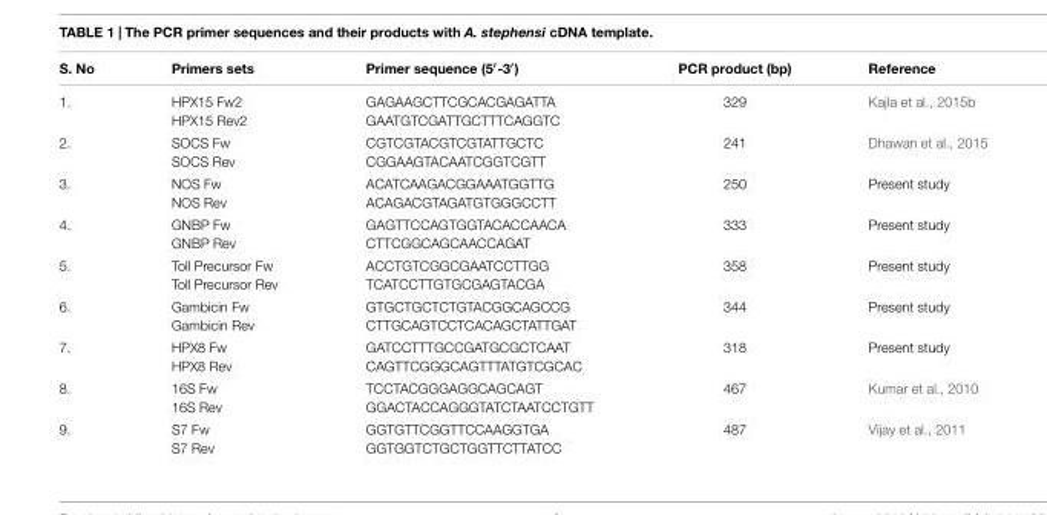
<table><thead><tr><td>S. No</td><td>Primers sets</td><td>Primer sequence (5′-3′)</td><td>PCR product (bp)</td><td>Reference</td></tr></thead><tbody><tr><td>1.</td><td>HPX15 Fw2 HPX15 Rev2</td><td>GAGAAGCTTCGCACGAGATTA GAATGTCGATTGCTTTCAGGTC</td><td>329</td><td>Kajla et al., 2015b</td></tr><tr><td>2.</td><td>SOCS Fw SOCS Rev</td><td>CGTCGTACGTCGTATTGCTC CGGAAGTACAATCGGTCGTT</td><td>241</td><td>Dhawan et al., 2015</td></tr><tr><td>3.</td><td>NOS Fw NOS Rev</td><td>ACATCAAGACGGAAATGGTTG ACAGACGTAGATGTGGGCCTT</td><td>250</td><td>Present study</td></tr><tr><td>4.</td><td>GNBP Fw GNBP Rev</td><td>GAGTTCCAGTGGTACACCAACA CTTCGGCAGCAACCAGAT</td><td>333</td><td>Present study</td></tr><tr><td>5.</td><td>Toll Precursor Fw Toll Precursor Rev</td><td>ACCTGTCGGCGAATCCTTGG TCATCCTTGTGCGAGTACGA</td><td>358</td><td>Present study</td></tr><tr><td>6.</td><td>Gambicin Fw Gambicin Rev</td><td>GTGCTGCTCTGTACGGCAGCCG CTTGCAGTCCTCACAGCTATTGAT</td><td>344</td><td>Present study</td></tr><tr><td>7.</td><td>HPX8 Fw HPX8 Rev</td><td>GATCCTTTGCCGATGCGCTCAAT CAGTTCGGGCAGTTTATGTCGCAC</td><td>318</td><td>Present study</td></tr><tr><td>8.</td><td>16S Fw 16S Rev</td><td>TCCTACGGGAGGCAGCAGT GGACTACCAGGGTATCTAATCCTGTT</td><td>467</td><td>Kumar et al., 2010</td></tr><tr><td>9.</td><td>S7 Fw S7 Rev</td><td>GGTGTTCGGTTCCAAGGTGA GGTGGTCTGCTGGTTCTTATCC</td><td>487</td><td>Vijay et al., 2011</td></tr></tbody></table>